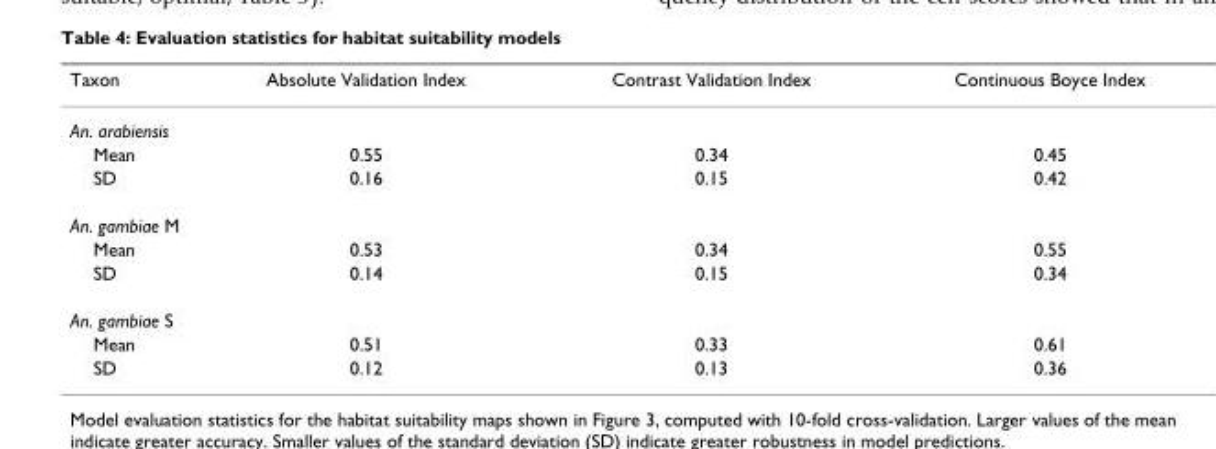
<table><thead><tr><td>Taxon</td><td>Absolute Validation Index</td><td>Contrast Validation Index</td><td>Continuous Boyce Index</td></tr></thead><tbody><tr><td colspan="4">An. arabiensis</td></tr><tr><td>Mean</td><td>0.55</td><td>0.34</td><td>0.45</td></tr><tr><td>SD</td><td>0.16</td><td>0.15</td><td>0.42</td></tr><tr><td colspan="4">An. gambiae M</td></tr><tr><td>Mean</td><td>0.53</td><td>0.34</td><td>0.55</td></tr><tr><td>SD</td><td>0.14</td><td>0.15</td><td>0.34</td></tr><tr><td colspan="4">An. gambiae S</td></tr><tr><td>Mean</td><td>0.51</td><td>0.33</td><td>0.61</td></tr><tr><td>SD</td><td>0.12</td><td>0.13</td><td>0.36</td></tr></tbody></table>